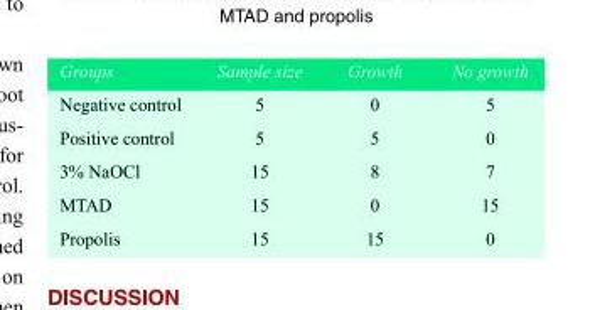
<table><tbody><tr><td>Groups</td><td>Sample size</td><td>Growth</td><td>No growth</td></tr><tr><td>Negative control</td><td>5</td><td>0</td><td>5</td></tr><tr><td>Positive control</td><td>5</td><td>5</td><td>0</td></tr><tr><td>3% NaOCl</td><td>15</td><td>8</td><td>7</td></tr><tr><td>MTAD</td><td>15</td><td>0</td><td>15</td></tr><tr><td>Propolis</td><td>15</td><td>15</td><td>0</td></tr></tbody></table>